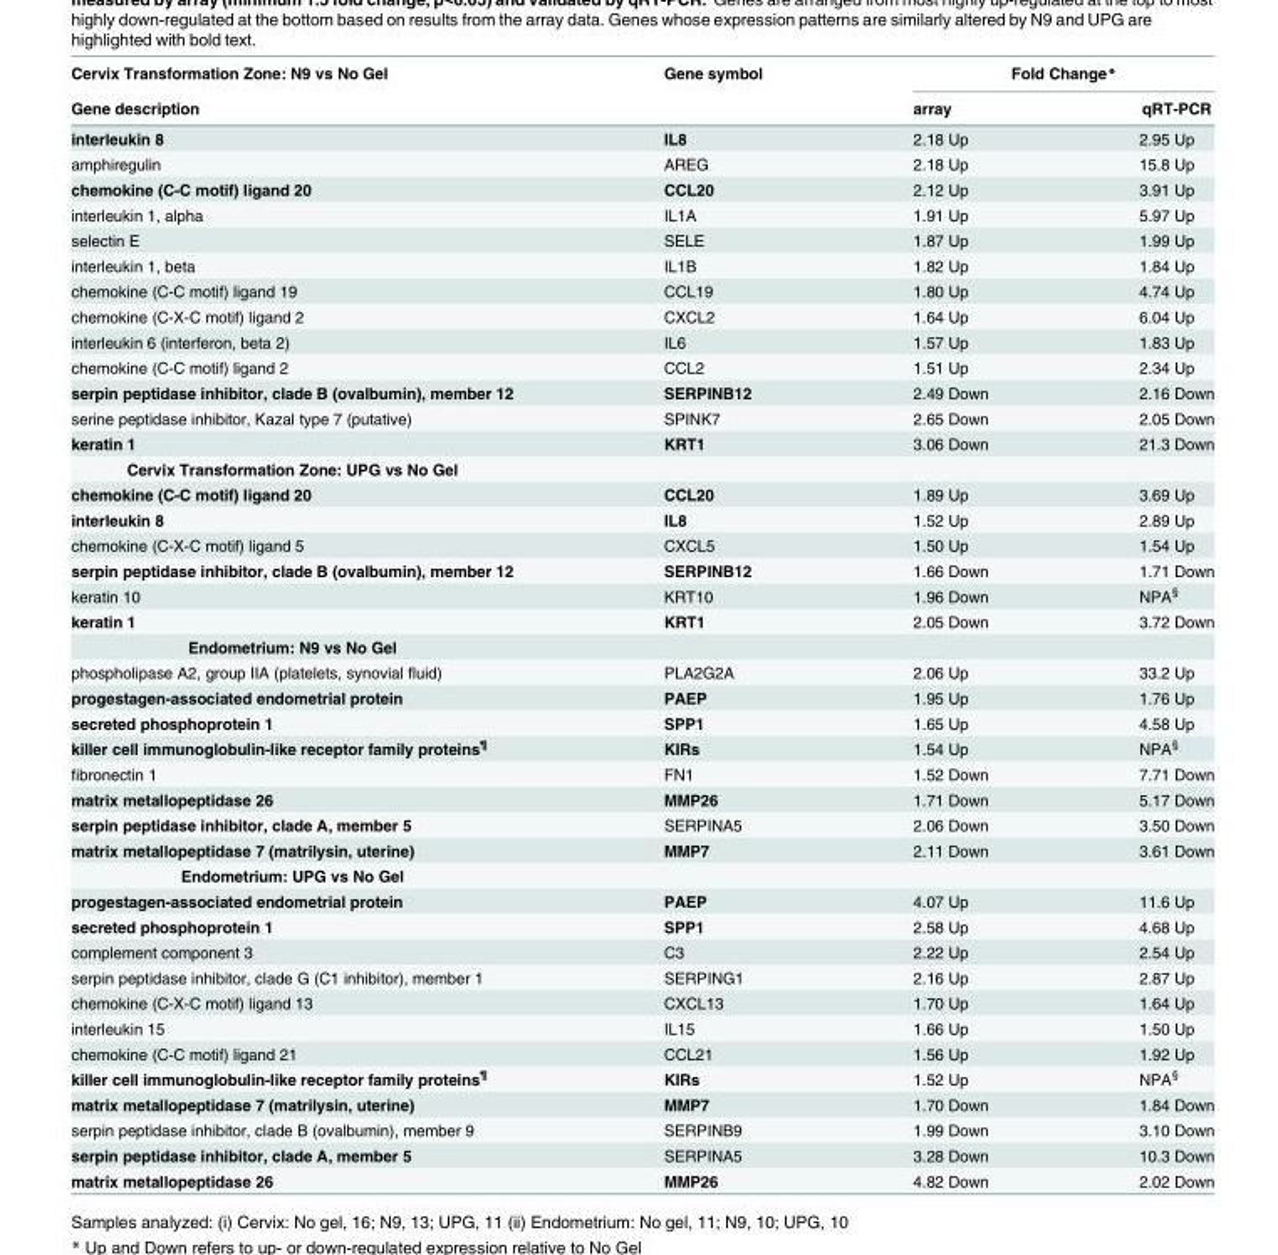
<table><thead><tr><td rowspan="2">Cervix Transformation Zone: N9 vs No Gel Gene description</td><td rowspan="2">Gene symbol</td><td colspan="2">Fold Change*</td></tr><tr><td>array</td><td>qRT-PCR</td></tr></thead><tbody><tr><td>interleukin 8</td><td>IL8</td><td>2.18 Up</td><td>2.95 Up</td></tr><tr><td>amphiregulin</td><td>AREG</td><td>2.18 Up</td><td>15.8 Up</td></tr><tr><td>chemokine (C-C motif) ligand 20</td><td>CCL20</td><td>2.12 Up</td><td>3.91 Up</td></tr><tr><td>interleukin 1, alpha</td><td>IL1A</td><td>1.91 Up</td><td>5.97 Up</td></tr><tr><td>selectin E</td><td>SELE</td><td>1.87 Up</td><td>1.99 Up</td></tr><tr><td>interleukin 1, beta</td><td>IL1B</td><td>1.82 Up</td><td>1.84 Up</td></tr><tr><td>chemokine (C-C motif) ligand 19</td><td>CCL19</td><td>1.80 Up</td><td>4.74 Up</td></tr><tr><td>chemokine (C-X-C motif) ligand 2</td><td>CXCL2</td><td>1.64 Up</td><td>6.04 Up</td></tr><tr><td>interleukin 6 (interferon, beta 2)</td><td>IL6</td><td>1.57 Up</td><td>1.83 Up</td></tr><tr><td>chemokine (C-C motif) ligand 2</td><td>CCL2</td><td>1.51 Up</td><td>2.34 Up</td></tr><tr><td>serpin peptidase inhibitor, clade B (ovalbumin), member 12</td><td>SERPINB12</td><td>2.49 Down</td><td>2.16 Down</td></tr><tr><td>serine peptidase inhibitor, Kazal type 7 (putative)</td><td>SPINK7</td><td>2.65 Down</td><td>2.05 Down</td></tr><tr><td>keratin 1</td><td>KRT1</td><td>3.06 Down</td><td>21.3 Down</td></tr><tr><td colspan="4">Cervix Transformation Zone: UPG vs No Gel</td></tr><tr><td>chemokine (C-C motif) ligand 20</td><td>CCL20</td><td>1.89 Up</td><td>3.69 Up</td></tr><tr><td>interleukin 8</td><td>IL8</td><td>1.52 Up</td><td>2.89 Up</td></tr><tr><td>chemokine (C-X-C motif) ligand 5</td><td>CXCL5</td><td>1.50 Up</td><td>1.54 Up</td></tr><tr><td>serpin peptidase inhibitor, clade B (ovalbumin), member 12</td><td>SERPINB12</td><td>1.66 Down</td><td>1.71 Down</td></tr><tr><td>keratin 10</td><td>KRT10</td><td>1.96 Down</td><td>NPA<sup>§</sup></td></tr><tr><td>keratin 1</td><td>KRT1</td><td>2.05 Down</td><td>3.72 Down</td></tr><tr><td colspan="4">Endometrium: N9 vs No Gel</td></tr><tr><td>phospholipase A2, group IIA (platelets, synovial fluid)</td><td>PLA2G2A</td><td>2.06 Up</td><td>33.2 Up</td></tr><tr><td>progestagen-associated endometrial protein</td><td>PAEP</td><td>1.95 Up</td><td>1.76 Up</td></tr><tr><td>secreted phosphoprotein 1</td><td>SPP1</td><td>1.65 Up</td><td>4.58 Up</td></tr><tr><td>killer cell immunoglobulin-like receptor family proteins<sup>¶</sup></td><td>KIRs</td><td>1.54 Up</td><td>NPA<sup>§</sup></td></tr><tr><td>fibronectin 1</td><td>FN1</td><td>1.52 Down</td><td>7.71 Down</td></tr><tr><td>matrix metallopeptidase 26</td><td>MMP26</td><td>1.71 Down</td><td>5.17 Down</td></tr><tr><td>serpin peptidase inhibitor, clade A, member 5</td><td>SERPINA5</td><td>2.06 Down</td><td>3.50 Down</td></tr><tr><td>matrix metallopeptidase 7 (matrilysin, uterine)</td><td>MMP7</td><td>2.11 Down</td><td>3.61 Down</td></tr><tr><td colspan="4">Endometrium: UPG vs No Gel</td></tr><tr><td>progestagen-associated endometrial protein</td><td>PAEP</td><td>4.07 Up</td><td>11.6 Up</td></tr><tr><td>secreted phosphoprotein 1</td><td>SPP1</td><td>2.58 Up</td><td>4.68 Up</td></tr><tr><td>complement component 3</td><td>C3</td><td>2.22 Up</td><td>2.54 Up</td></tr><tr><td>serpin peptidase inhibitor, clade G (C1 inhibitor), member 1</td><td>SERPING1</td><td>2.16 Up</td><td>2.87 Up</td></tr><tr><td>chemokine (C-X-C motif) ligand 13</td><td>CXCL13</td><td>1.70 Up</td><td>1.64 Up</td></tr><tr><td>interleukin 15</td><td>IL15</td><td>1.66 Up</td><td>1.50 Up</td></tr><tr><td>chemokine (C-C motif) ligand 21</td><td>CCL21</td><td>1.56 Up</td><td>1.92 Up</td></tr><tr><td>killer cell immunoglobulin-like receptor family proteins<sup>¶</sup></td><td>KIRs</td><td>1.52 Up</td><td>NPA<sup>§</sup></td></tr><tr><td>matrix metallopeptidase 7 (matrilysin, uterine)</td><td>MMP7</td><td>1.70 Down</td><td>1.84 Down</td></tr><tr><td>serpin peptidase inhibitor, clade B (ovalbumin), member 9</td><td>SERPINB9</td><td>1.99 Down</td><td>3.10 Down</td></tr><tr><td>serpin peptidase inhibitor, clade A, member 5</td><td>SERPINA5</td><td>3.28 Down</td><td>10.3 Down</td></tr><tr><td>matrix metallopeptidase 26</td><td>MMP26</td><td>4.82 Down</td><td>2.02 Down</td></tr></tbody></table>